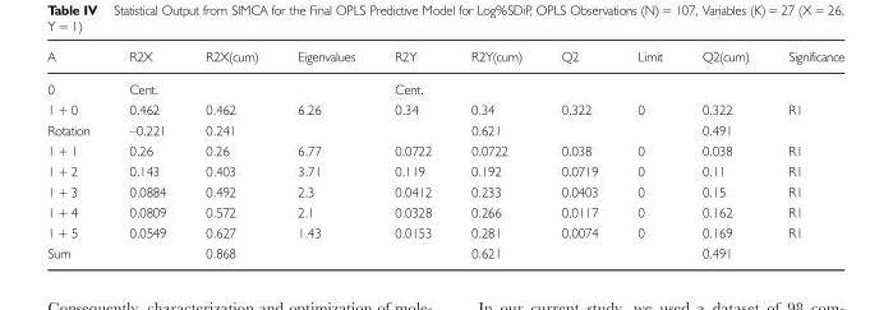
<table><thead><tr><td>A</td><td>R2X</td><td>R2X(cum)</td><td>Eigenvalues</td><td>R2Y</td><td>R2Y(cum)</td><td>Q2</td><td>Limit</td><td>Q2(cum)</td><td>Significance</td></tr></thead><tbody><tr><td>0</td><td>Cent.</td><td></td><td></td><td>Cent.</td><td></td><td></td><td></td><td></td><td></td></tr><tr><td>1 + 0</td><td>0.462</td><td>0.462</td><td>6.26</td><td>0.34</td><td>0.34</td><td>0.322</td><td>0</td><td>0.322</td><td>R1</td></tr><tr><td>Rotation</td><td>–0.221</td><td>0.241</td><td></td><td></td><td>0.621</td><td></td><td></td><td>0.491</td><td></td></tr><tr><td>1 + 1</td><td>0.26</td><td>0.26</td><td>6.77</td><td>0.0722</td><td>0.0722</td><td>0.038</td><td>0</td><td>0.038</td><td>R1</td></tr><tr><td>1 + 2</td><td>0.143</td><td>0.403</td><td>3.71</td><td>0.119</td><td>0.192</td><td>0.0719</td><td>0</td><td>0.11</td><td>R1</td></tr><tr><td>1 + 3</td><td>0.0884</td><td>0.492</td><td>2.3</td><td>0.0412</td><td>0.233</td><td>0.0403</td><td>0</td><td>0.15</td><td>R1</td></tr><tr><td>1 + 4</td><td>0.0809</td><td>0.572</td><td>2.1</td><td>0.0328</td><td>0.266</td><td>0.0117</td><td>0</td><td>0.162</td><td>R1</td></tr><tr><td>1 + 5</td><td>0.0549</td><td>0.627</td><td>1.43</td><td>0.0153</td><td>0.281</td><td>0.0074</td><td>0</td><td>0.169</td><td>R1</td></tr><tr><td>Sum</td><td></td><td>0.868</td><td></td><td></td><td>0.621</td><td></td><td></td><td>0.491</td><td></td></tr></tbody></table>